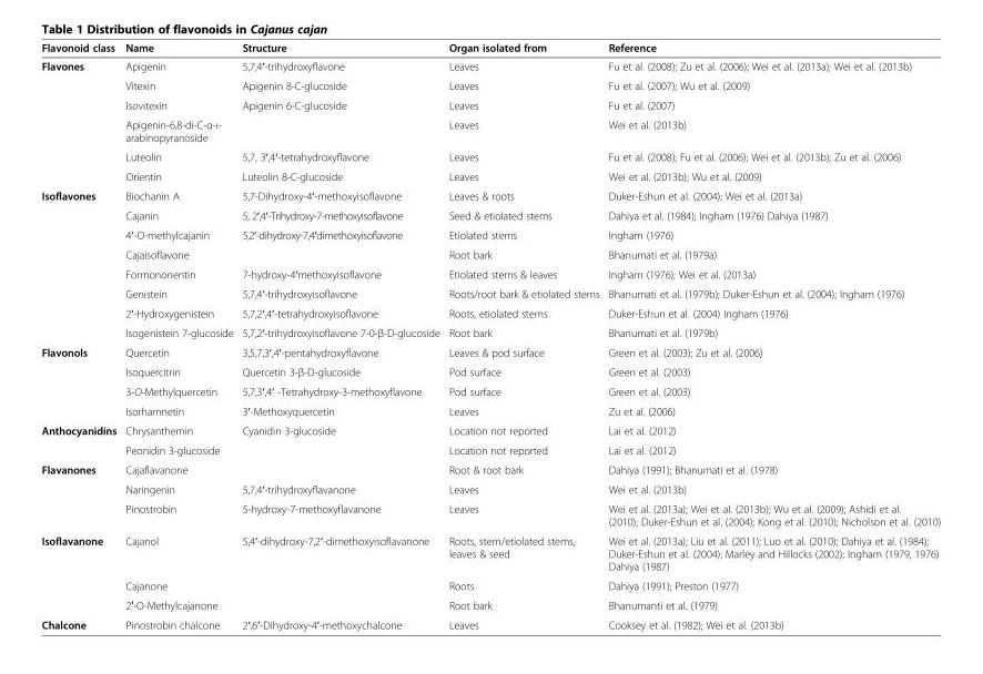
<table><thead><tr><td>Flavonoid class</td><td>Name</td><td>Structure</td><td>Organ isolated from</td><td>Reference</td></tr></thead><tbody><tr><td rowspan="6">Flavones</td><td>Apigenin</td><td>5,7,4′-trihydroxyflavone</td><td>Leaves</td><td>Fu et al. (2008); Zu et al. (2006); Wei et al. (2013a); Wei et al. (2013b)</td></tr><tr><td>Vitexin</td><td>Apigenin 8-C-glucoside</td><td>Leaves</td><td>Fu et al. (2007); Wu et al. (2009)</td></tr><tr><td>Isovitexin</td><td>Apigenin 6-C-glucoside</td><td>Leaves</td><td>Fu et al. (2007)</td></tr><tr><td>Apigenin-6,8-di-C-α-ι- arabinopyranoside</td><td></td><td>Leaves</td><td>Wei et al. (2013b)</td></tr><tr><td>Luteolin</td><td>5,7, 3′,4′-tetrahydroxyflavone</td><td>Leaves</td><td>Fu et al. (2008); Fu et al. (2006); Wei et al. (2013b); Zu et al. (2006)</td></tr><tr><td>Orientin</td><td>Luteolin 8-C-glucoside</td><td>Leaves</td><td>Wei et al. (2013b); Wu et al. (2009)</td></tr><tr><td rowspan="8">Isoflavones</td><td>Biochanin A</td><td>5,7-Dihydroxy-4′-methoxyisoflavone</td><td>Leaves &amp; roots</td><td>Duker-Eshun et al. (2004); Wei et al. (2013a)</td></tr><tr><td>Cajanin</td><td>5, 2′,4′-Trihydroxy-7-methoxyisoflavone</td><td>Seed &amp; etiolated stems</td><td>Dahiya et al. (1984); Ingham (1976) Dahiya (1987)</td></tr><tr><td>4′-O-methylcajanin</td><td>5,2′-dihydroxy-7,4′dimethoxyisoflavone</td><td>Etiolated stems</td><td>Ingham (1976)</td></tr><tr><td>Cajaisoflavone</td><td></td><td>Root bark</td><td>Bhanumati et al. (1979a)</td></tr><tr><td>Formononentin</td><td>7-hydroxy-4′methoxyisoflavone</td><td>Etiolated stems &amp; leaves</td><td>Ingham (1976); Wei et al. (2013a)</td></tr><tr><td>Genistein</td><td>5,7,4′-trihydroxyisoflavone</td><td>Roots/root bark &amp; etiolated stems</td><td>Bhanumati et al. (1979b); Duker-Eshun et al. (2004); Ingham (1976)</td></tr><tr><td>2′-Hydroxygenistein</td><td>5,7,2′,4′-tetrahydroxyisoflavone</td><td>Roots, etiolated stems</td><td>Duker-Eshun et al. (2004) Ingham (1976)</td></tr><tr><td>Isogenistein 7-glucoside</td><td>5,7,2′-trihydroxyisoflavone 7-0-β-D-glucoside</td><td>Root bark</td><td>Bhanumati et al. (1979b)</td></tr><tr><td rowspan="4">Flavonols</td><td>Quercetin</td><td>3,5,7,3′,4′-pentahydroxyflavone</td><td>Leaves &amp; pod surface</td><td>Green et al. (2003); Zu et al. (2006)</td></tr><tr><td>Isoquercitrin</td><td>Quercetin 3-β-D-glucoside</td><td>Pod surface</td><td>Green et al. (2003)</td></tr><tr><td>3-O-Methylquercetin</td><td>5,7,3′,4′ -Tetrahydroxy-3-methoxyflavone</td><td>Pod surface</td><td>Green et al. (2003)</td></tr><tr><td>Isorhamnetin</td><td>3′-Methoxyquercetin</td><td>Leaves</td><td>Zu et al. (2006)</td></tr><tr><td rowspan="2">Anthocyanidins</td><td>Chrysanthemin</td><td>Cyanidin 3-glucoside</td><td>Location not reported</td><td>Lai et al. (2012)</td></tr><tr><td>Peonidin 3-glucoside</td><td></td><td>Location not reported</td><td>Lai et al. (2012)</td></tr><tr><td rowspan="3">Flavanones</td><td>Cajaflavanone</td><td></td><td>Root &amp; root bark</td><td>Dahiya (1991); Bhanumati et al. (1978)</td></tr><tr><td>Naringenin</td><td>5,7,4′-trihydroxyflavanone</td><td>Leaves</td><td>Wei et al. (2013b)</td></tr><tr><td>Pinostrobin</td><td>5-hydroxy-7-methoxyflavanone</td><td>Leaves</td><td>Wei et al. (2013a); Wei et al. (2013b); Wu et al. (2009); Ashidi et al. (2010); Duker-Eshun et al. (2004); Kong et al. (2010); Nicholson et al. (2010)</td></tr><tr><td rowspan="3">Isoflavanone</td><td>Cajanol</td><td>5,4′-dihydroxy-7,2′-dimethoxyisoflavanone</td><td>Roots, stem/etiolated stems, leaves &amp; seed</td><td>Wei et al. (2013a); Liu et al. (2011); Luo et al. (2010); Dahiya et al. (1984); Duker-Eshun et al. (2004); Marley and Hillocks (2002); Ingham (1979, 1976) Dahiya (1987)</td></tr><tr><td>Cajanone</td><td></td><td>Roots</td><td>Dahiya (1991); Preston (1977)</td></tr><tr><td>2′-O-Methylcajanone</td><td></td><td>Root bark</td><td>Bhanumanti et al. (1979)</td></tr><tr><td>Chalcone</td><td>Pinostrobin chalcone</td><td>2′,6′-Dihydroxy-4′-methoxychalcone</td><td>Leaves</td><td>Cooksey et al. (1982); Wei et al. (2013b)</td></tr></tbody></table>